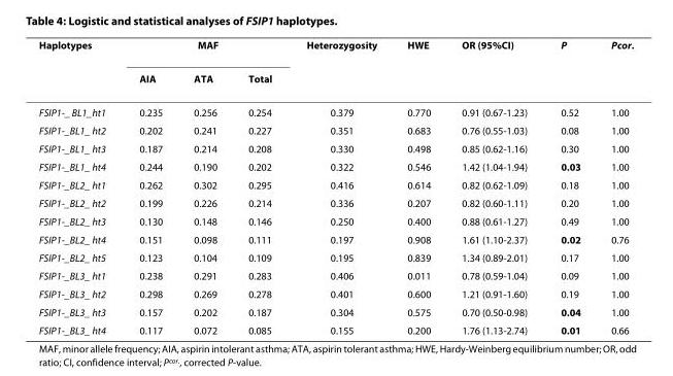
<table><thead><tr><td rowspan="2">Haplotypes</td><td colspan="3">MAF</td><td rowspan="2">Heterozygosity</td><td rowspan="2">HWE</td><td rowspan="2">OR (95%CI)</td><td rowspan="2">P</td><td rowspan="2">P<sup>cor.</sup></td></tr><tr><td>AIA</td><td>ATA</td><td>Total</td></tr></thead><tbody><tr><td>FSIP1-_ BL1_ht1</td><td>0.235</td><td>0.256</td><td>0.254</td><td>0.379</td><td>0.770</td><td>0.91 (0.67-1.23)</td><td>0.52</td><td>1.00</td></tr><tr><td>FSIP1-_BL1_ ht2</td><td>0.202</td><td>0.241</td><td>0.227</td><td>0.351</td><td>0.683</td><td>0.76 (0.55-1.03)</td><td>0.08</td><td>1.00</td></tr><tr><td>FSIP1-_BL1_ ht3</td><td>0.187</td><td>0.214</td><td>0.208</td><td>0.330</td><td>0.498</td><td>0.85 (0.62-1.16)</td><td>0.30</td><td>1.00</td></tr><tr><td>FSIP1-_BL1_ ht4</td><td>0.244</td><td>0.190</td><td>0.202</td><td>0.322</td><td>0.546</td><td>1.42 (1.04-1.94)</td><td>0.03</td><td>1.00</td></tr><tr><td>FSIP1-_BL2_ ht1</td><td>0.262</td><td>0.302</td><td>0.295</td><td>0.416</td><td>0.614</td><td>0.82 (0.62-1.09)</td><td>0.18</td><td>1.00</td></tr><tr><td>FSIP1-_BL2_ ht2</td><td>0.199</td><td>0.226</td><td>0.214</td><td>0.336</td><td>0.207</td><td>0.82 (0.60-1.11)</td><td>0.20</td><td>1.00</td></tr><tr><td>FSIP1-_BL2_ ht3</td><td>0.130</td><td>0.148</td><td>0.146</td><td>0.250</td><td>0.400</td><td>0.88 (0.61-1.27)</td><td>0.49</td><td>1.00</td></tr><tr><td>FSIP1-_BL2_ ht4</td><td>0.151</td><td>0.098</td><td>0.111</td><td>0.197</td><td>0.908</td><td>1.61 (1.10-2.37)</td><td>0.02</td><td>0.76</td></tr><tr><td>FSIP1-_BL2_ ht5</td><td>0.123</td><td>0.104</td><td>0.109</td><td>0.195</td><td>0.839</td><td>1.34 (0.89-2.01)</td><td>0.17</td><td>1.00</td></tr><tr><td>FSIP1-_BL3_ ht1</td><td>0.238</td><td>0.291</td><td>0.283</td><td>0.406</td><td>0.011</td><td>0.78 (0.59-1.04)</td><td>0.09</td><td>1.00</td></tr><tr><td>FSIP1-_BL3_ ht2</td><td>0.298</td><td>0.269</td><td>0.278</td><td>0.401</td><td>0.600</td><td>1.21 (0.91-1.60)</td><td>0.19</td><td>1.00</td></tr><tr><td>FSIP1-_BL3_ ht3</td><td>0.157</td><td>0.202</td><td>0.187</td><td>0.304</td><td>0.575</td><td>0.70 (0.50-0.98)</td><td>0.04</td><td>1.00</td></tr><tr><td>FSIP1-_BL3_ ht4</td><td>0.117</td><td>0.072</td><td>0.085</td><td>0.155</td><td>0.200</td><td>1.76 (1.13-2.74)</td><td>0.01</td><td>0.66</td></tr></tbody></table>